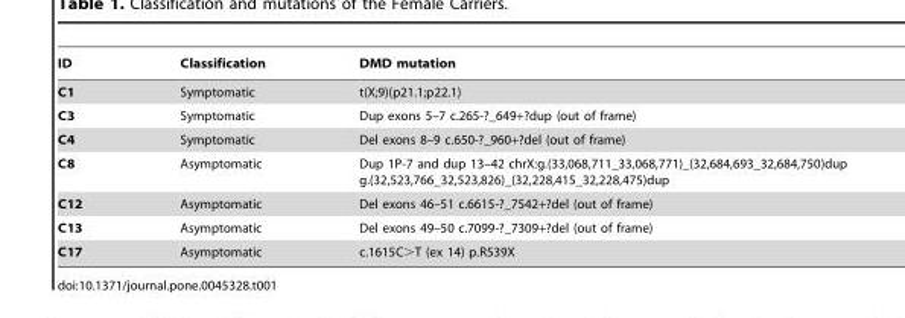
<table><thead><tr><td>ID</td><td>Classification</td><td>DMD mutation</td></tr></thead><tbody><tr><td>C1</td><td>Symptomatic</td><td>t(X;9)(p21.1;p22.1)</td></tr><tr><td>C3</td><td>Symptomatic</td><td>Dup exons 5–7 c.265-?_649+?dup (out of frame)</td></tr><tr><td>C4</td><td>Symptomatic</td><td>Del exons 8–9 c.650-?_960+?del (out of frame)</td></tr><tr><td>C8</td><td>Asymptomatic</td><td>Dup 1P-7 and dup 13–42 chrX:g.(33,068,711_33,068,771)_(32,684,693_32,684,750)dup g.(32,523,766_32,523,826)_(32,228,415_32,228,475)dup</td></tr><tr><td>C12</td><td>Asymptomatic</td><td>Del exons 46–51 c.6615-?_7542+?del (out of frame)</td></tr><tr><td>C13</td><td>Asymptomatic</td><td>Del exons 49–50 c.7099-?_7309+?del (out of frame)</td></tr><tr><td>C17</td><td>Asymptomatic</td><td>c.1615C&gt;T (ex 14) p.R539X</td></tr></tbody></table>